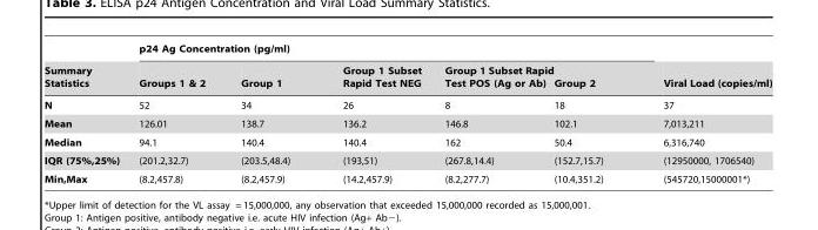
<table><thead><tr><td rowspan="2">Summary Statistics</td><td colspan="5">p24 Ag Concentration (pg/ml)</td><td rowspan="2">Viral Load (copies/ml)</td></tr><tr><td>Groups 1 &amp; 2</td><td>Group 1</td><td>Group 1 Subset Rapid Test NEG</td><td>Group 1 Subset Rapid Test POS (Ag or Ab)</td><td>Group 2</td></tr></thead><tbody><tr><td>N</td><td>52</td><td>34</td><td>26</td><td>8</td><td>18</td><td>37</td></tr><tr><td>Mean</td><td>126.01</td><td>138.7</td><td>136.2</td><td>146.8</td><td>102.1</td><td>7,013,211</td></tr><tr><td>Median</td><td>94.1</td><td>140.4</td><td>140.4</td><td>162</td><td>50.4</td><td>6,316,740</td></tr><tr><td>IQR (75%,25%)</td><td>(201.2,32.7)</td><td>(203.5,48.4)</td><td>(193,51)</td><td>(267.8,14.4)</td><td>(152.7,15.7)</td><td>(12950000, 1706540)</td></tr><tr><td>Min,Max</td><td>(8.2,457.8)</td><td>(8.2,457.9)</td><td>(14.2,457.9)</td><td>(8.2,277.7)</td><td>(10.4,351.2)</td><td>(545720,15000001*)</td></tr></tbody></table>